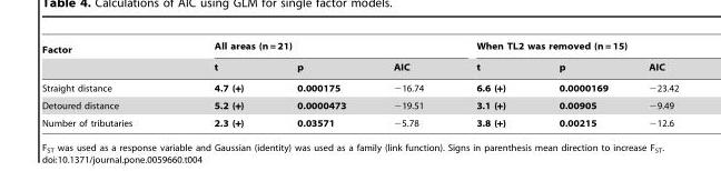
<table><thead><tr><td rowspan="2">Factor</td><td colspan="3">All areas (n = 21)</td><td colspan="3">When TL2 was removed (n = 15)</td></tr><tr><td>t</td><td>p</td><td>AIC</td><td>t</td><td>p</td><td>AIC</td></tr></thead><tbody><tr><td>Straight distance</td><td>4.7 (+)</td><td>0.000175</td><td>−16.74</td><td>6.6 (+)</td><td>0.0000169</td><td>−23.42</td></tr><tr><td>Detoured distance</td><td>5.2 (+)</td><td>0.0000473</td><td>−19.51</td><td>3.1 (+)</td><td>0.00905</td><td>−9.49</td></tr><tr><td>Number of tributaries</td><td>2.3 (+)</td><td>0.03571</td><td>−5.78</td><td>3.8 (+)</td><td>0.00215</td><td>−12.6</td></tr></tbody></table>